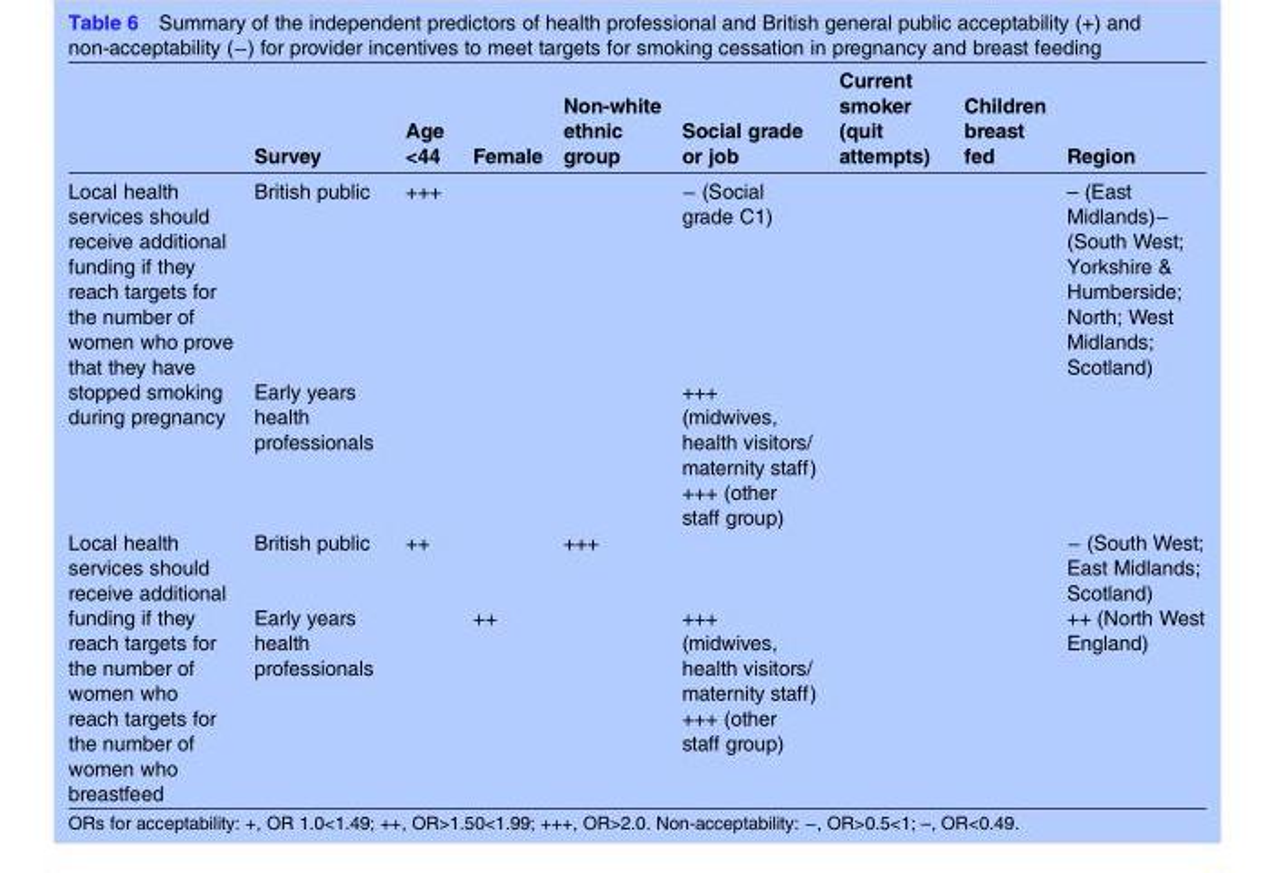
<table><thead><tr><td></td><td>Survey</td><td>Age &lt;44</td><td>Female</td><td>Non-white ethnic group</td><td>Social grade or job</td><td>Current smoker (quit attempts)</td><td>Children breast fed</td><td>Region</td></tr></thead><tbody><tr><td rowspan="2">Local health services should receive additional funding if they reach targets for the number of women who prove that they have stopped smoking during pregnancy</td><td>British public</td><td>+++</td><td></td><td></td><td>− (Social grade C1)</td><td></td><td></td><td>– (East Midlands)− (South West; Yorkshire &amp; Humberside; North; West Midlands; Scotland)</td></tr><tr><td>Early years health professionals</td><td></td><td></td><td></td><td>+++ (midwives, health visitors/ maternity staff) +++ (other staff group)</td><td></td><td></td><td></td></tr><tr><td rowspan="2">Local health services should receive additional funding if they reach targets for the number of women who reach targets for the number of women who breastfeed</td><td>British public</td><td>++</td><td></td><td>+++</td><td></td><td></td><td></td><td>− (South West; East Midlands; Scotland)</td></tr><tr><td>Early years health professionals</td><td></td><td>++</td><td></td><td>+++ (midwives, health visitors/ maternity staff) +++ (other staff group)</td><td></td><td></td><td>++ (North West England)</td></tr></tbody></table>